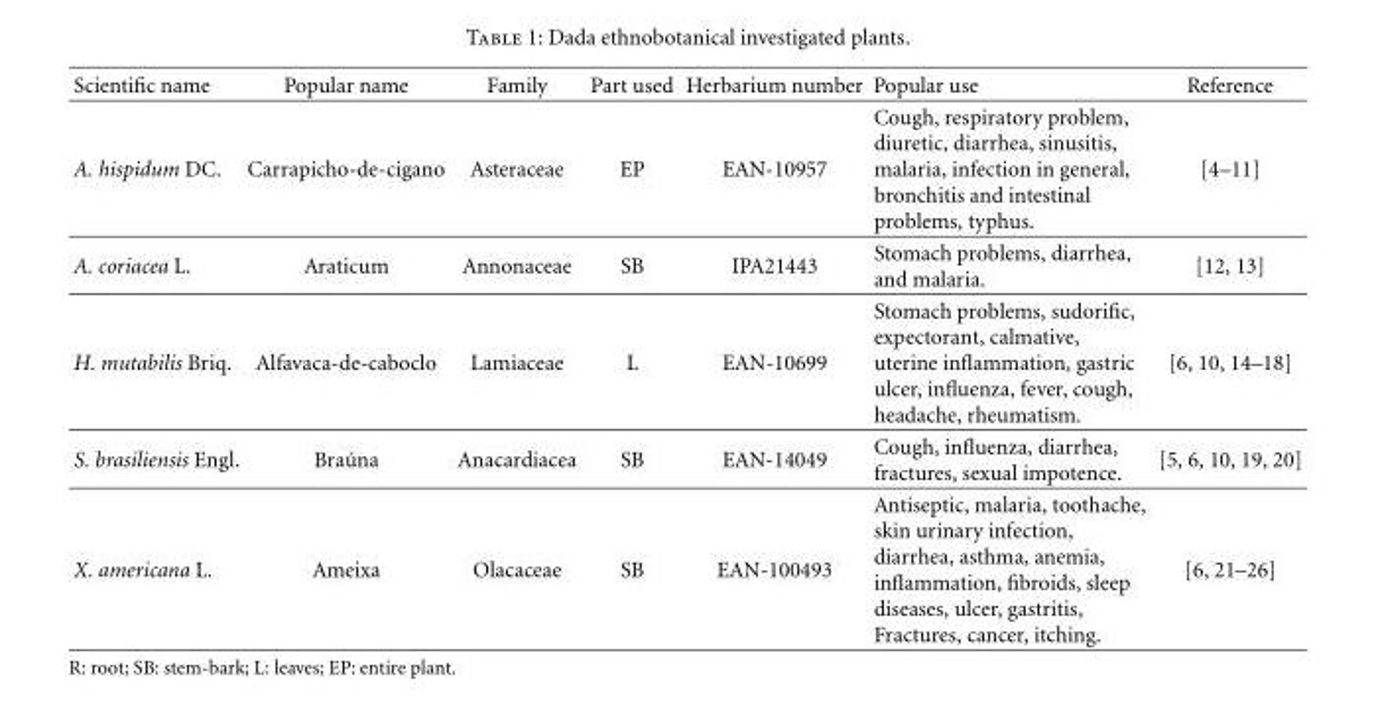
<table><thead><tr><td>Scientific name</td><td>Popular name</td><td>Family</td><td>Part used</td><td>Herbarium number</td><td>Popular use</td><td>Reference</td></tr></thead><tbody><tr><td>A. hispidum DC.</td><td>Carrapicho-de-cigano</td><td>Asteraceae</td><td>EP</td><td>EAN-10957</td><td>Cough, respiratory problem, diuretic, diarrhea, sinusitis, malaria, infection in general, bronchitis and intestinal problems, typhus.</td><td>[4–11]</td></tr><tr><td>A. coriacea L.</td><td>Araticum</td><td>Annonaceae</td><td>SB</td><td>IPA21443</td><td>Stomach problems, diarrhea, and malaria.</td><td>[12, 13]</td></tr><tr><td>H. mutabilis Briq.</td><td>Alfavaca-de-caboclo</td><td>Lamiaceae</td><td>L</td><td>EAN-10699</td><td>Stomach problems, sudorific, expectorant, calmative, uterine inflammation, gastric ulcer, influenza, fever, cough, headache, rheumatism.</td><td>[6, 10, 14–18]</td></tr><tr><td>S. brasiliensis Engl.</td><td>Bra´una</td><td>Anacardiacea</td><td>SB</td><td>EAN-14049</td><td>Cough, influenza, diarrhea, fractures, sexual impotence.</td><td>[5, 6, 10, 19, 20]</td></tr><tr><td>X. americana L.</td><td>Ameixa</td><td>Olacaceae</td><td>SB</td><td>EAN-100493</td><td>Antiseptic, malaria, toothache, skin urinary infection, diarrhea, asthma, anemia, inflammation, fibroids, sleep diseases, ulcer, gastritis, Fractures, cancer, itching.</td><td>[6, 21–26]</td></tr></tbody></table>